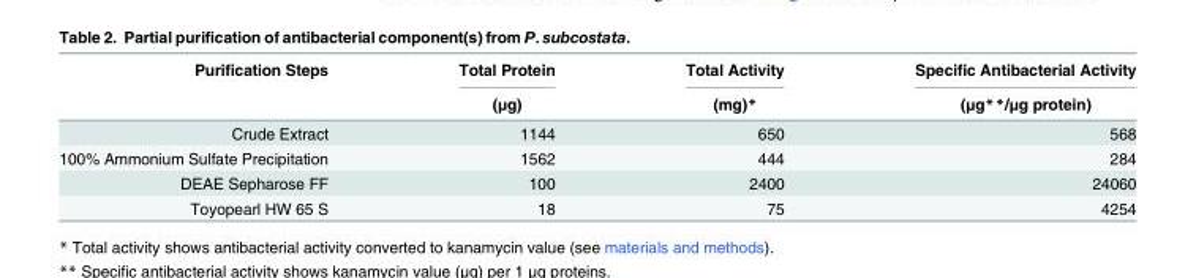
<table><thead><tr><td rowspan="2">Purification Steps</td><td rowspan="2">Total Protein (μg)</td><td rowspan="2">Total Activity (mg)*</td><td rowspan="2">Specific Antibacterial Activity (μg**/μg protein)</td></tr><tr></tr></thead><tbody><tr><td>Crude Extract</td><td>1144</td><td>650</td><td>568</td></tr><tr><td>100% Ammonium Sulfate Precipitation</td><td>1562</td><td>444</td><td>284</td></tr><tr><td>DEAE Sepharose FF</td><td>100</td><td>2400</td><td>24060</td></tr><tr><td>Toyopearl HW 65 S</td><td>18</td><td>75</td><td>4254</td></tr></tbody></table>